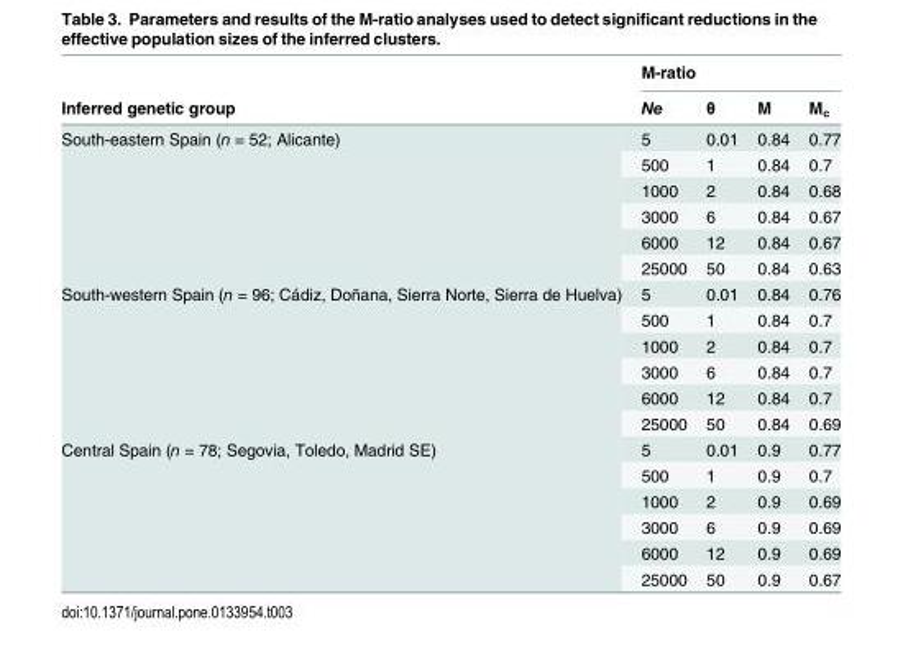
<table><thead><tr><td rowspan="2">Inferred genetic group</td><td colspan="4">M-ratio</td></tr><tr><td>Ne</td><td>θ</td><td>M</td><td>M<sub>c</sub></td></tr></thead><tbody><tr><td rowspan="6">South-eastern Spain (n = 52; Alicante)</td><td>5</td><td>0.01</td><td>0.84</td><td>0.77</td></tr><tr><td>500</td><td>1</td><td>0.84</td><td>0.7</td></tr><tr><td>1000</td><td>2</td><td>0.84</td><td>0.68</td></tr><tr><td>3000</td><td>6</td><td>0.84</td><td>0.67</td></tr><tr><td>6000</td><td>12</td><td>0.84</td><td>0.67</td></tr><tr><td>25000</td><td>50</td><td>0.84</td><td>0.63</td></tr><tr><td rowspan="6">South-western Spain (n = 96; Cádiz, Doñana, Sierra Norte, Sierra de Huelva)</td><td>5</td><td>0.01</td><td>0.84</td><td>0.76</td></tr><tr><td>500</td><td>1</td><td>0.84</td><td>0.7</td></tr><tr><td>1000</td><td>2</td><td>0.84</td><td>0.7</td></tr><tr><td>3000</td><td>6</td><td>0.84</td><td>0.7</td></tr><tr><td>6000</td><td>12</td><td>0.84</td><td>0.7</td></tr><tr><td>25000</td><td>50</td><td>0.84</td><td>0.69</td></tr><tr><td rowspan="6">Central Spain (n = 78; Segovia, Toledo, Madrid SE)</td><td>5</td><td>0.01</td><td>0.9</td><td>0.77</td></tr><tr><td>500</td><td>1</td><td>0.9</td><td>0.7</td></tr><tr><td>1000</td><td>2</td><td>0.9</td><td>0.69</td></tr><tr><td>3000</td><td>6</td><td>0.9</td><td>0.69</td></tr><tr><td>6000</td><td>12</td><td>0.9</td><td>0.69</td></tr><tr><td>25000</td><td>50</td><td>0.9</td><td>0.67</td></tr></tbody></table>